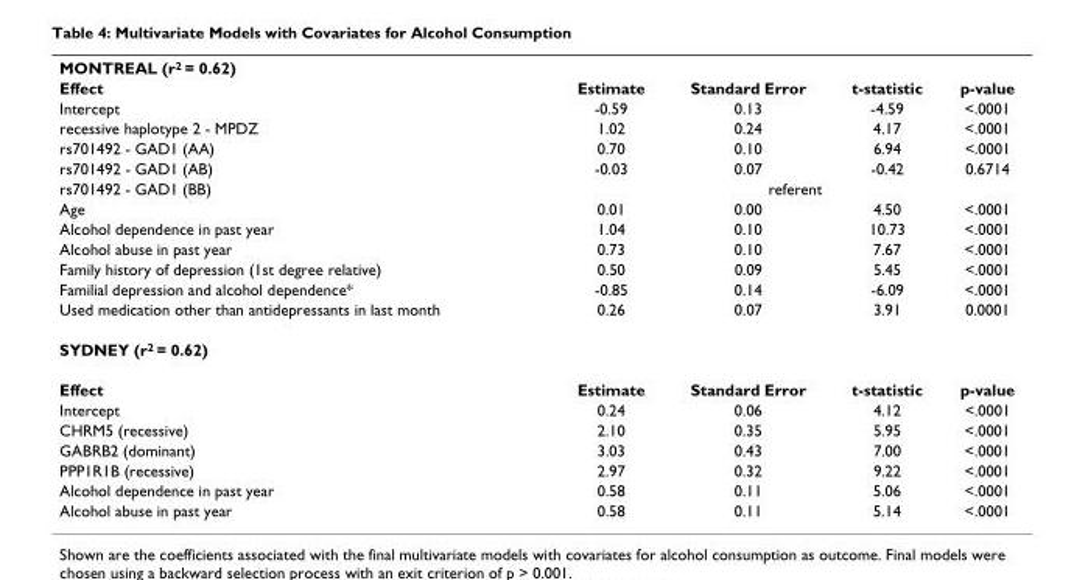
<table><tbody><tr><td colspan="5">MONTREAL (r2 = 0.62)</td></tr><tr><td>Effect</td><td>Estimate</td><td>Standard Error</td><td>t-statistic</td><td>p-value</td></tr><tr><td>Intercept</td><td>-0.59</td><td>0.13</td><td>-4.59</td><td>&lt;.0001</td></tr><tr><td>recessive haplotype 2 - MPDZ</td><td>1.02</td><td>0.24</td><td>4.17</td><td>&lt;.0001</td></tr><tr><td>rs701492 - GAD1 (AA)</td><td>0.70</td><td>0.10</td><td>6.94</td><td>&lt;.0001</td></tr><tr><td>rs701492 - GAD1 (AB)</td><td>-0.03</td><td>0.07</td><td>-0.42</td><td>0.6714</td></tr><tr><td>rs701492 - GAD1 (BB)</td><td colspan="4">referent</td></tr><tr><td>Age</td><td>0.01</td><td>0.00</td><td>4.50</td><td>&lt;.0001</td></tr><tr><td>Alcohol dependence in past year</td><td>1.04</td><td>0.10</td><td>10.73</td><td>&lt;.0001</td></tr><tr><td>Alcohol abuse in past year</td><td>0.73</td><td>0.10</td><td>7.67</td><td>&lt;.0001</td></tr><tr><td>Family history of depression (1st degree relative)</td><td>0.50</td><td>0.09</td><td>5.45</td><td>&lt;.0001</td></tr><tr><td>Familial depression and alcohol dependence*</td><td>-0.85</td><td>0.14</td><td>-6.09</td><td>&lt;.0001</td></tr><tr><td>Used medication other than antidepressants in last month</td><td>0.26</td><td>0.07</td><td>3.91</td><td>0.0001</td></tr><tr><td colspan="5">SYDNEY (r2 = 0.62)</td></tr><tr><td>Effect</td><td>Estimate</td><td>Standard Error</td><td>t-statistic</td><td>p-value</td></tr><tr><td>Intercept</td><td>0.24</td><td>0.06</td><td>4.12</td><td>&lt;.0001</td></tr><tr><td>CHRM5 (recessive)</td><td>2.10</td><td>0.35</td><td>5.95</td><td>&lt;.0001</td></tr><tr><td>GABRB2 (dominant)</td><td>3.03</td><td>0.43</td><td>7.00</td><td>&lt;.0001</td></tr><tr><td>PPP1R1B (recessive)</td><td>2.97</td><td>0.32</td><td>9.22</td><td>&lt;.0001</td></tr><tr><td>Alcohol dependence in past year</td><td>0.58</td><td>0.11</td><td>5.06</td><td>&lt;.0001</td></tr><tr><td>Alcohol abuse in past year</td><td>0.58</td><td>0.11</td><td>5.14</td><td>&lt;.0001</td></tr></tbody></table>